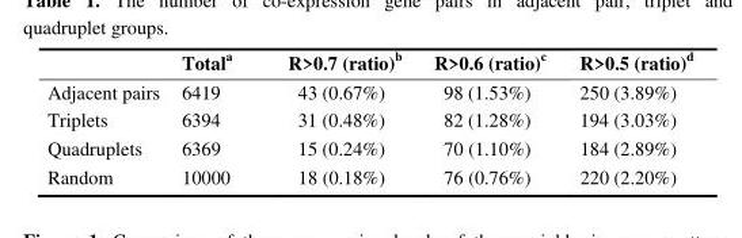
<table><thead><tr><td></td><td>Total<sup>a</sup></td><td>R&gt;0.7 (ratio)<sup>b</sup></td><td>R&gt;0.6 (ratio)<sup>c</sup></td><td>R&gt;0.5 (ratio)<sup>d</sup></td></tr></thead><tbody><tr><td>Adjacent pairs</td><td>6419</td><td>43 (0.67%)</td><td>98 (1.53%)</td><td>250 (3.89%)</td></tr><tr><td>Triplets</td><td>6394</td><td>31 (0.48%)</td><td>82 (1.28%)</td><td>194 (3.03%)</td></tr><tr><td>Quadruplets</td><td>6369</td><td>15 (0.24%)</td><td>70 (1.10%)</td><td>184 (2.89%)</td></tr><tr><td>Random</td><td>10000</td><td>18 (0.18%)</td><td>76 (0.76%)</td><td>220 (2.20%)</td></tr></tbody></table>